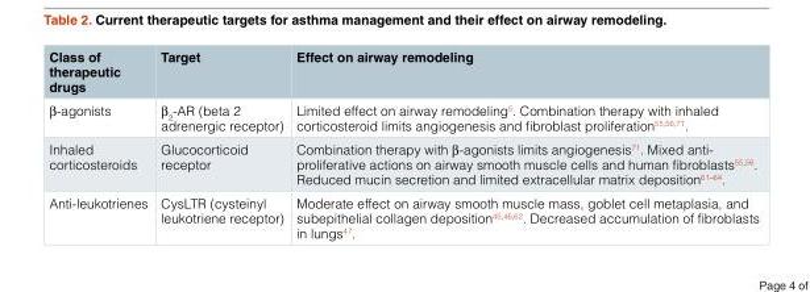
<table><thead><tr><td>Class of therapeutic drugs</td><td>Target</td><td>Effect on airway remodeling</td></tr></thead><tbody><tr><td>β-agonists</td><td>β<sub>2</sub>-AR (beta 2 adrenergic receptor)</td><td>Limited effect on airway remodeling<sup>5</sup>. Combination therapy with inhaled corticosteroid limits angiogenesis and fibroblast proliferation<sup>55,56,71</sup>.</td></tr><tr><td>Inhaled corticosteroids</td><td>Glucocorticoid receptor</td><td>Combination therapy with β-agonists limits angiogenesis<sup>71</sup>. Mixed anti- proliferative actions on airway smooth muscle cells and human fibroblasts<sup>55,56</sup>. Reduced mucin secretion and limited extracellular matrix deposition<sup>61–64</sup>.</td></tr><tr><td>Anti-leukotrienes</td><td>CysLTR (cysteinyl leukotriene receptor)</td><td>Moderate effect on airway smooth muscle mass, goblet cell metaplasia, and subepithelial collagen deposition<sup>45,46,62</sup>. Decreased accumulation of fibroblasts in lungs<sup>47</sup>.</td></tr></tbody></table>